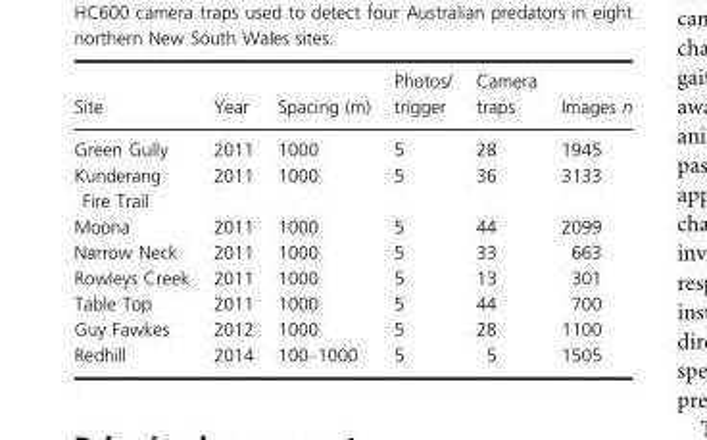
<table><thead><tr><td>Site</td><td>Year</td><td>Spacing (m)</td><td>Photos/ trigger</td><td>Camera traps</td><td>Images n</td></tr></thead><tbody><tr><td>Green Gully</td><td>2011</td><td>1000</td><td>5</td><td>28</td><td>1945</td></tr><tr><td>Kunderang Fire Trail</td><td>2011</td><td>1000</td><td>5</td><td>36</td><td>3133</td></tr><tr><td>Moona</td><td>2011</td><td>1000</td><td>5</td><td>44</td><td>2099</td></tr><tr><td>Narrow Neck</td><td>2011</td><td>1000</td><td>5</td><td>33</td><td>663</td></tr><tr><td>Rowleys Creek</td><td>2011</td><td>1000</td><td>5</td><td>13</td><td>301</td></tr><tr><td>Table Top</td><td>2011</td><td>1000</td><td>5</td><td>44</td><td>700</td></tr><tr><td>Guy Fawkes</td><td>2012</td><td>1000</td><td>5</td><td>28</td><td>1100</td></tr><tr><td>Redhill</td><td>2014</td><td>100–1000</td><td>5</td><td>5</td><td>1505</td></tr></tbody></table>